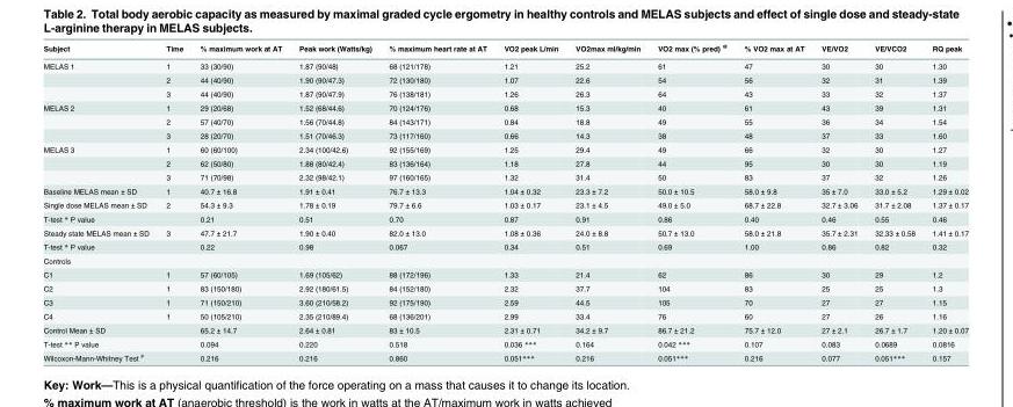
<table><thead><tr><td>Subject</td><td>Time</td><td>% maximum work at AT</td><td>Peak work (Watts/kg)</td><td>% maximum heart rate at AT</td><td>VO2 peak L/min</td><td>VO2max ml/kg/min</td><td>VO2 max (% pred) <sup>@</sup></td><td>% VO2 max at AT</td><td>VE/VO2</td><td>VE/VCO2</td><td>RQ peak</td></tr></thead><tbody><tr><td rowspan="3">MELAS 1</td><td>1</td><td>33 (30/90)</td><td>1.87 (90/48)</td><td>68 (121/178)</td><td>1.21</td><td>25.2</td><td>61</td><td>47</td><td>30</td><td>30</td><td>1.30</td></tr><tr><td>2</td><td>44 (40/90)</td><td>1.90 (90/47.3)</td><td>72 (130/180)</td><td>1.07</td><td>22.6</td><td>54</td><td>56</td><td>32</td><td>31</td><td>1.39</td></tr><tr><td>3</td><td>44 (40/90)</td><td>1.87 (90/47.9)</td><td>76 (138/181)</td><td>1.26</td><td>26.3</td><td>64</td><td>43</td><td>33</td><td>32</td><td>1.37</td></tr><tr><td rowspan="3">MELAS 2</td><td>1</td><td>29 (20/68)</td><td>1.52 (68/44.6)</td><td>70 (124/176)</td><td>0.68</td><td>15.3</td><td>40</td><td>61</td><td>43</td><td>39</td><td>1.31</td></tr><tr><td>2</td><td>57 (40/70)</td><td>1.56 (70/44.8)</td><td>84 (143/171)</td><td>0.84</td><td>18.8</td><td>49</td><td>55</td><td>36</td><td>34</td><td>1.54</td></tr><tr><td>3</td><td>28 (20/70)</td><td>1.51 (70/46.3)</td><td>73 (117/160)</td><td>0.66</td><td>14.3</td><td>38</td><td>48</td><td>37</td><td>33</td><td>1.60</td></tr><tr><td rowspan="3">MELAS 3</td><td>1</td><td>60 (60/100)</td><td>2.34 (100/42.6)</td><td>92 (155/169)</td><td>1.25</td><td>29.4</td><td>49</td><td>66</td><td>32</td><td>30</td><td>1.27</td></tr><tr><td>2</td><td>62 (50/80)</td><td>1.88 (80/42.4)</td><td>83 (136/164)</td><td>1.18</td><td>27.8</td><td>44</td><td>95</td><td>30</td><td>30</td><td>1.19</td></tr><tr><td>3</td><td>71 (70/98)</td><td>2.32 (98/42.1)</td><td>97 (160/165)</td><td>1.32</td><td>31.4</td><td>50</td><td>83</td><td>37</td><td>32</td><td>1.26</td></tr><tr><td>Baseline MELAS mean ± SD</td><td>1</td><td>40.7 ± 16.8</td><td>1.91 ± 0.41</td><td>76.7 ± 13.3</td><td>1.04 ± 0.32</td><td>23.3 ± 7.2</td><td>50.0 ± 10.5</td><td>58.0 ± 9.8</td><td>35 ± 7.0</td><td>33.0 ± 5.2</td><td>1.29 ± 0.02</td></tr><tr><td>Single dose MELAS mean ± SD</td><td>2</td><td>54.3 ± 9.3</td><td>1.78 ± 0.19</td><td>79.7 ± 6.6</td><td>1.03 ± 0.17</td><td>23.1 ± 4.5</td><td>49.0 ± 5.0</td><td>68.7 ± 22.8</td><td>32.7 ± 3.06</td><td>31.7 ± 2.08</td><td>1.37 ± 0.17</td></tr><tr><td>T-test * P value</td><td></td><td>0.21</td><td>0.51</td><td>0.70</td><td>0.87</td><td>0.91</td><td>0.86</td><td>0.40</td><td>0.46</td><td>0.55</td><td>0.46</td></tr><tr><td>Steady state MELAS mean ± SD</td><td>3</td><td>47.7 ± 21.7</td><td>1.90 ± 0.40</td><td>82.0 ± 13.0</td><td>1.08 ± 0.36</td><td>24.0 ± 8.8</td><td>50.7 ± 13.0</td><td>58.0 ± 21.8</td><td>35.7 ± 2.31</td><td>32.33 ± 0.58</td><td>1.41 ± 0.17</td></tr><tr><td>T-test * P value</td><td></td><td>0.22</td><td>0.98</td><td>0.067</td><td>0.34</td><td>0.51</td><td>0.69</td><td>1.00</td><td>0.86</td><td>0.82</td><td>0.32</td></tr><tr><td colspan="12">Controls</td></tr><tr><td>C1</td><td>1</td><td>57 (60/105)</td><td>1.69 (105/62)</td><td>88 (172/196)</td><td>1.33</td><td>21.4</td><td>62</td><td>86</td><td>30</td><td>29</td><td>1.2</td></tr><tr><td>C2</td><td>1</td><td>83 (150/180)</td><td>2.92 (180/61.5)</td><td>84 (152/180)</td><td>2.32</td><td>37.7</td><td>104</td><td>83</td><td>25</td><td>25</td><td>1.3</td></tr><tr><td>C3</td><td>1</td><td>71 (150/210)</td><td>3.60 (210/58.2)</td><td>92 (175/190)</td><td>2.59</td><td>44.5</td><td>105</td><td>70</td><td>27</td><td>27</td><td>1.15</td></tr><tr><td>C4</td><td>1</td><td>50 (105/210)</td><td>2.35 (210/89.4)</td><td>68 (136/201)</td><td>2.99</td><td>33.4</td><td>76</td><td>60</td><td>27</td><td>26</td><td>1.16</td></tr><tr><td>Control Mean ± SD</td><td></td><td>65.2 ± 14.7</td><td>2.64 ± 0.81</td><td>83 ± 10.5</td><td>2.31 ± 0.71</td><td>34.2 ± 9.7</td><td>86.7 ± 21.2</td><td>75.7 ± 12.0</td><td>27 ± 2.1</td><td>26.7 ± 1.7</td><td>1.20 ± 0.07</td></tr><tr><td>T-test ** P value</td><td></td><td>0.094</td><td>0.220</td><td>0.518</td><td>0.036 ***</td><td>0.164</td><td>0.042 ***</td><td>0.107</td><td>0.083</td><td>0.0689</td><td>0.0816</td></tr><tr><td>Wilcoxon-Mann-Whitney Test <sup>#</sup></td><td></td><td>0.216</td><td>0.216</td><td>0.860</td><td>0.051***</td><td>0.216</td><td>0.051***</td><td>0.216</td><td>0.077</td><td>0.051***</td><td>0.157</td></tr></tbody></table>